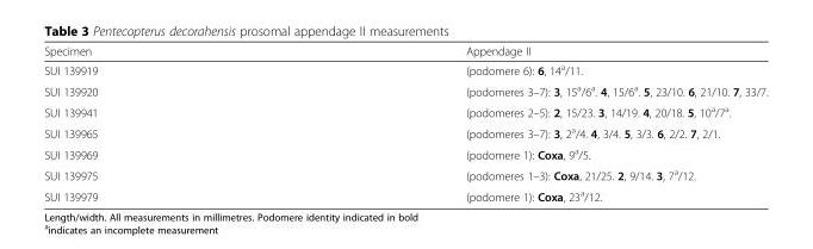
<table><thead><tr><td>Specimen</td><td>Appendage II</td></tr></thead><tbody><tr><td>SUI 139919</td><td>(podomere 6): 6, 14<sup>a</sup>/11.</td></tr><tr><td>SUI 139920</td><td>(podomeres 3–7): 3, 15<sup>a</sup>/6<sup>a</sup>. 4, 15/6<sup>a</sup>. 5, 23/10. 6, 21/10. 7, 33/7.</td></tr><tr><td>SUI 139941</td><td>(podomeres 2–5): 2, 15/23. 3, 14/19. 4, 20/18. 5, 10<sup>a</sup>/7<sup>a</sup>.</td></tr><tr><td>SUI 139965</td><td>(podomeres 3–7): 3, 2<sup>a</sup>/4. 4, 3/4. 5, 3/3. 6, 2/2. 7, 2/1.</td></tr><tr><td>SUI 139969</td><td>(podomere 1): Coxa, 9<sup>a</sup>/5.</td></tr><tr><td>SUI 139975</td><td>(podomeres 1–3): Coxa, 21/25. 2, 9/14. 3, 7<sup>a</sup>/12.</td></tr><tr><td>SUI 139979</td><td>(podomere 1): Coxa, 23<sup>a</sup>/12.</td></tr></tbody></table>